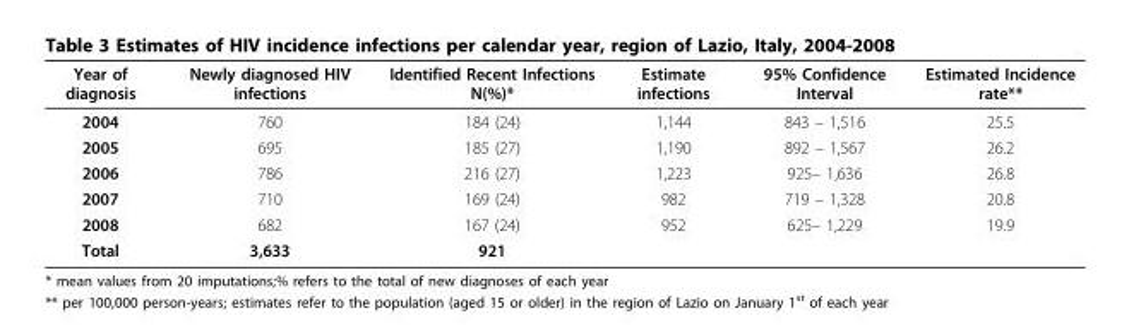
<table><thead><tr><td>Year of diagnosis</td><td>Newly diagnosed HIV infections</td><td>Identified Recent Infections N(%)*</td><td>Estimate infections</td><td>95% Confidence Interval</td><td>Estimated Incidence rate**</td></tr></thead><tbody><tr><td>2004</td><td>760</td><td>184 (24)</td><td>1,144</td><td>843 – 1,516</td><td>25.5</td></tr><tr><td>2005</td><td>695</td><td>185 (27)</td><td>1,190</td><td>892 – 1,567</td><td>26.2</td></tr><tr><td>2006</td><td>786</td><td>216 (27)</td><td>1,223</td><td>925– 1,636</td><td>26.8</td></tr><tr><td>2007</td><td>710</td><td>169 (24)</td><td>982</td><td>719 – 1,328</td><td>20.8</td></tr><tr><td>2008</td><td>682</td><td>167 (24)</td><td>952</td><td>625– 1,229</td><td>19.9</td></tr><tr><td>Total</td><td>3,633</td><td>921</td><td></td><td></td><td></td></tr></tbody></table>